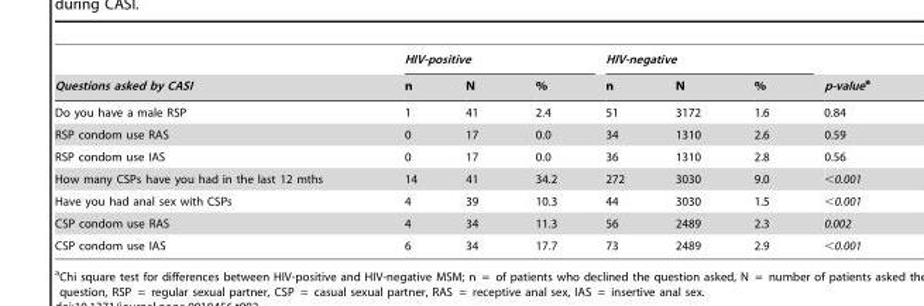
<table><thead><tr><td rowspan="2">Questions asked by CASI</td><td colspan="3">HIV-positive</td><td colspan="3">HIV-negative</td><td rowspan="2">p-valuea</td></tr><tr><td>n</td><td>N</td><td>%</td><td>n</td><td>N</td><td>%</td></tr></thead><tbody><tr><td>Do you have a male RSP</td><td>1</td><td>41</td><td>2.4</td><td>51</td><td>3172</td><td>1.6</td><td>0.84</td></tr><tr><td>RSP condom use RAS</td><td>0</td><td>17</td><td>0.0</td><td>34</td><td>1310</td><td>2.6</td><td>0.59</td></tr><tr><td>RSP condom use IAS</td><td>0</td><td>17</td><td>0.0</td><td>36</td><td>1310</td><td>2.8</td><td>0.56</td></tr><tr><td>How many CSPs have you had in the last 12 mths</td><td>14</td><td>41</td><td>34.2</td><td>272</td><td>3030</td><td>9.0</td><td>&lt;0.001</td></tr><tr><td>Have you had anal sex with CSPs</td><td>4</td><td>39</td><td>10.3</td><td>44</td><td>3030</td><td>1.5</td><td>&lt;0.001</td></tr><tr><td>CSP condom use RAS</td><td>4</td><td>34</td><td>11.3</td><td>56</td><td>2489</td><td>2.3</td><td>0.002</td></tr><tr><td>CSP condom use IAS</td><td>6</td><td>34</td><td>17.7</td><td>73</td><td>2489</td><td>2.9</td><td>&lt;0.001</td></tr></tbody></table>